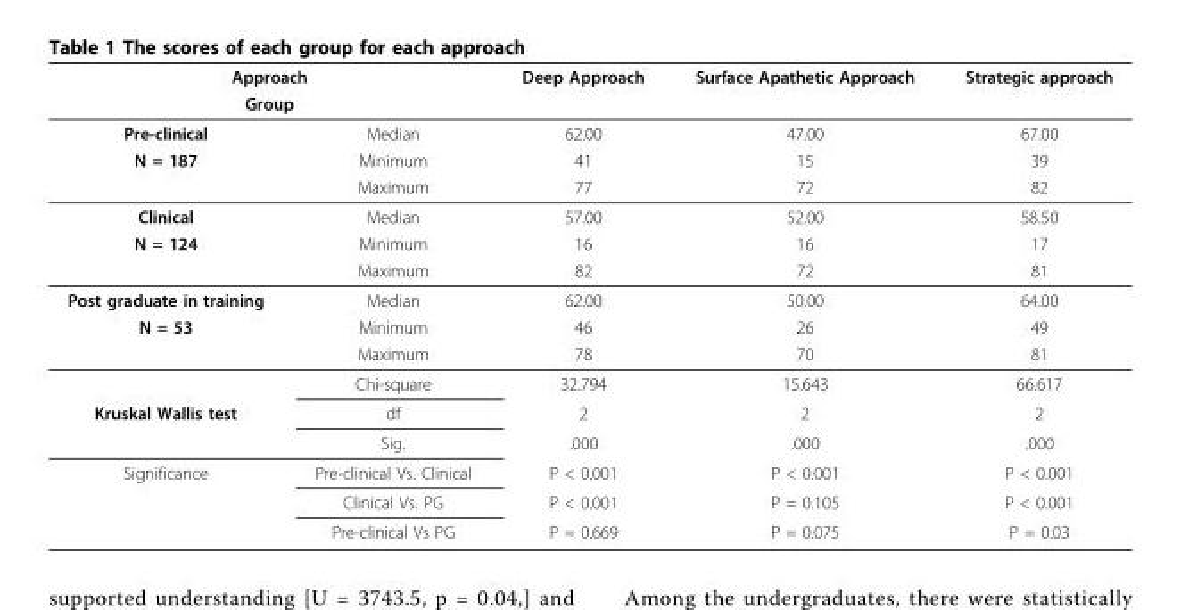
<table><thead><tr><td rowspan="2" colspan="2">Approach Group</td><td rowspan="3">Deep Approach 62.00</td><td rowspan="3">Surface Apathetic Approach 47.00</td><td rowspan="3">Strategic approach 67.00</td></tr><tr></tr><tr><td>Pre-clinical</td><td>Median</td></tr></thead><tbody><tr><td rowspan="2">N = 187</td><td>Minimum</td><td>41</td><td>15</td><td>39</td></tr><tr><td>Maximum</td><td>77</td><td>72</td><td>82</td></tr><tr><td>Clinical</td><td>Median</td><td>57.00</td><td>52.00</td><td>58.50</td></tr><tr><td rowspan="2">N = 124</td><td>Minimum</td><td>16</td><td>16</td><td>17</td></tr><tr><td>Maximum</td><td>82</td><td>72</td><td>81</td></tr><tr><td>Post graduate in training</td><td>Median</td><td>62.00</td><td>50.00</td><td>64.00</td></tr><tr><td rowspan="3">N = 53</td><td>Minimum</td><td>46</td><td>26</td><td>49</td></tr><tr><td>Maximum</td><td>78</td><td>70</td><td>81</td></tr><tr><td>Chi-square</td><td>32.794</td><td>15.643</td><td>66.617</td></tr><tr><td rowspan="2">Kruskal Wallis test</td><td>df</td><td>2</td><td>2</td><td>2</td></tr><tr><td>Sig.</td><td>.000</td><td>.000</td><td>.000</td></tr><tr><td rowspan="3">Significance</td><td>Pre-clinical Vs. Clinical</td><td>P &lt; 0.001</td><td>P &lt; 0.001</td><td>P &lt; 0.001</td></tr><tr><td>Clinical Vs. PG</td><td>P &lt; 0.001</td><td>P = 0.105</td><td>P &lt; 0.001</td></tr><tr><td>Pre-clinical Vs PG</td><td>P = 0.669</td><td>P = 0.075</td><td>P = 0.03</td></tr></tbody></table>